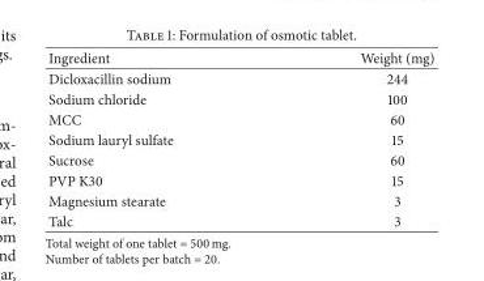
<table><thead><tr><td>Ingredient</td><td>Weight (mg)</td></tr></thead><tbody><tr><td>Dicloxacillin sodium</td><td>244</td></tr><tr><td>Sodium chloride</td><td>100</td></tr><tr><td>MCC</td><td>60</td></tr><tr><td>Sodium lauryl sulfate</td><td>15</td></tr><tr><td>Sucrose</td><td>60</td></tr><tr><td>PVP K30</td><td>15</td></tr><tr><td>Magnesium stearate</td><td>3</td></tr><tr><td>Talc</td><td>3</td></tr></tbody></table>